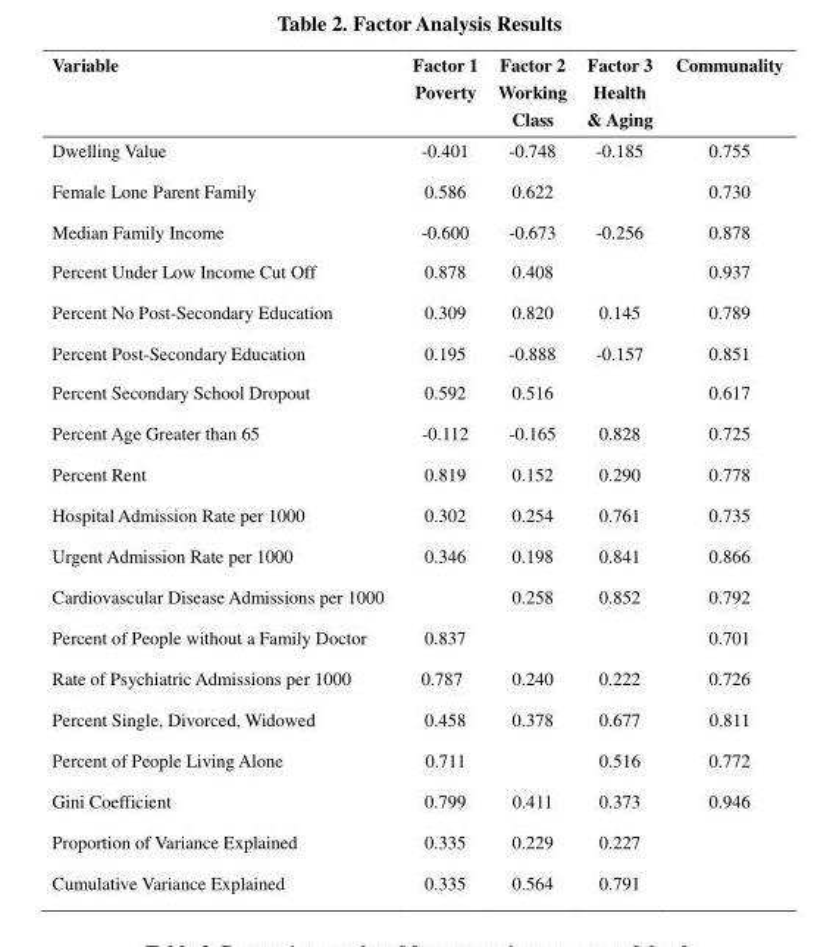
<table><thead><tr><td>Variable</td><td>Factor 1 Poverty</td><td>Factor 2 Working Class</td><td>Factor 3 Health &amp; Aging</td><td>Communality</td></tr></thead><tbody><tr><td>Dwelling Value</td><td>-0.401</td><td>-0.748</td><td>-0.185</td><td>0.755</td></tr><tr><td>Female Lone Parent Family</td><td>0.586</td><td>0.622</td><td></td><td>0.730</td></tr><tr><td>Median Family Income</td><td>-0.600</td><td>-0.673</td><td>-0.256</td><td>0.878</td></tr><tr><td>Percent Under Low Income Cut Off</td><td>0.878</td><td>0.408</td><td></td><td>0.937</td></tr><tr><td>Percent No Post-Secondary Education</td><td>0.309</td><td>0.820</td><td>0.145</td><td>0.789</td></tr><tr><td>Percent Post-Secondary Education</td><td>0.195</td><td>-0.888</td><td>-0.157</td><td>0.851</td></tr><tr><td>Percent Secondary School Dropout</td><td>0.592</td><td>0.516</td><td></td><td>0.617</td></tr><tr><td>Percent Age Greater than 65</td><td>-0.112</td><td>-0.165</td><td>0.828</td><td>0.725</td></tr><tr><td>Percent Rent</td><td>0.819</td><td>0.152</td><td>0.290</td><td>0.778</td></tr><tr><td>Hospital Admission Rate per 1000</td><td>0.302</td><td>0.254</td><td>0.761</td><td>0.735</td></tr><tr><td>Urgent Admission Rate per 1000</td><td>0.346</td><td>0.198</td><td>0.841</td><td>0.866</td></tr><tr><td>Cardiovascular Disease Admissions per 1000</td><td></td><td>0.258</td><td>0.852</td><td>0.792</td></tr><tr><td>Percent of People without a Family Doctor</td><td>0.837</td><td></td><td></td><td>0.701</td></tr><tr><td>Rate of Psychiatric Admissions per 1000</td><td>0.787</td><td>0.240</td><td>0.222</td><td>0.726</td></tr><tr><td>Percent Single, Divorced, Widowed</td><td>0.458</td><td>0.378</td><td>0.677</td><td>0.811</td></tr><tr><td>Percent of People Living Alone</td><td>0.711</td><td></td><td>0.516</td><td>0.772</td></tr><tr><td>Gini Coefficient</td><td>0.799</td><td>0.411</td><td>0.373</td><td>0.946</td></tr><tr><td>Proportion of Variance Explained</td><td>0.335</td><td>0.229</td><td>0.227</td><td></td></tr><tr><td>Cumulative Variance Explained</td><td>0.335</td><td>0.564</td><td>0.791</td><td></td></tr></tbody></table>